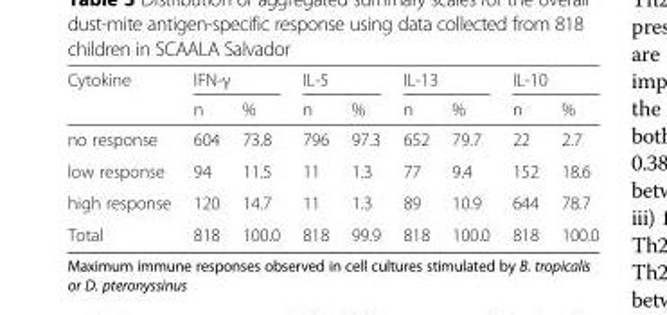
<table><thead><tr><td rowspan="2">Cytokine</td><td colspan="2">IFN-γ</td><td colspan="2">IL-5</td><td colspan="2">IL-13</td><td colspan="2">IL-10</td></tr><tr><td>n</td><td>%</td><td>n</td><td>%</td><td>n</td><td>%</td><td>n</td><td>%</td></tr></thead><tbody><tr><td>no response</td><td>604</td><td>73.8</td><td>796</td><td>97.3</td><td>652</td><td>79.7</td><td>22</td><td>2.7</td></tr><tr><td>low response</td><td>94</td><td>11.5</td><td>11</td><td>1.3</td><td>77</td><td>9.4</td><td>152</td><td>18.6</td></tr><tr><td>high response</td><td>120</td><td>14.7</td><td>11</td><td>1.3</td><td>89</td><td>10.9</td><td>644</td><td>78.7</td></tr><tr><td>Total</td><td>818</td><td>100.0</td><td>818</td><td>99.9</td><td>818</td><td>100.0</td><td>818</td><td>100.0</td></tr></tbody></table>